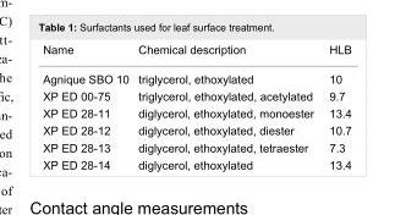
<table><tbody><tr><td>Name</td><td>Chemical description</td><td>HLB</td></tr><tr><td>Agnique SBO 10</td><td>triglycerol, ethoxylated</td><td>10</td></tr><tr><td>XP ED 00-75</td><td>triglycerol, ethoxylated, acetylated</td><td>9.7</td></tr><tr><td>XP ED 28-11</td><td>diglycerol, ethoxylated, monoester</td><td>13.4</td></tr><tr><td>XP ED 28-12</td><td>diglycerol, ethoxylated, diester</td><td>10.7</td></tr><tr><td>XP ED 28-13</td><td>diglycerol, ethoxylated, tetraester</td><td>7.3</td></tr><tr><td>XP ED 28-14</td><td>diglycerol, ethoxylated</td><td>13.4</td></tr></tbody></table>